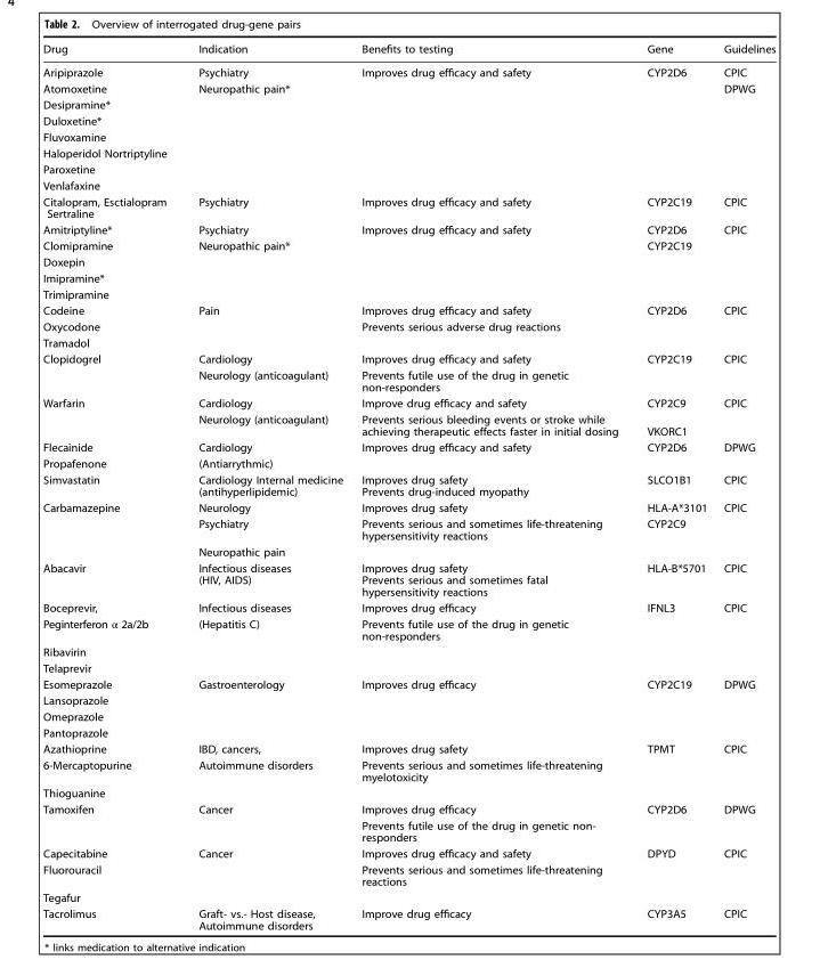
<table><thead><tr><td>Drug</td><td>Indication</td><td>Benefits to testing</td><td>Gene</td><td>Guidelines</td></tr></thead><tbody><tr><td>Aripiprazole</td><td>Psychiatry</td><td>Improves drug efficacy and safety</td><td>CYP2D6</td><td>CPIC</td></tr><tr><td>Atomoxetine</td><td>Neuropathic pain*</td><td></td><td></td><td>DPWG</td></tr><tr><td colspan="5">Desipramine*</td></tr><tr><td colspan="5">Duloxetine*</td></tr><tr><td colspan="5">Fluvoxamine</td></tr><tr><td colspan="5">Haloperidol Nortriptyline</td></tr><tr><td colspan="5">Paroxetine</td></tr><tr><td colspan="5">Venlafaxine</td></tr><tr><td>Citalopram, Esctialopram Sertraline</td><td>Psychiatry</td><td>Improves drug efficacy and safety</td><td>CYP2C19</td><td>CPIC</td></tr><tr><td>Amitriptyline*</td><td>Psychiatry</td><td>Improves drug efficacy and safety</td><td>CYP2D6</td><td>CPIC</td></tr><tr><td>Clomipramine</td><td>Neuropathic pain*</td><td></td><td>CYP2C19</td><td></td></tr><tr><td colspan="5">Doxepin</td></tr><tr><td colspan="5">Imipramine*</td></tr><tr><td colspan="5">Trimipramine</td></tr><tr><td>Codeine</td><td>Pain</td><td>Improves drug efficacy and safety</td><td>CYP2D6</td><td>CPIC</td></tr><tr><td>Oxycodone</td><td></td><td>Prevents serious adverse drug reactions</td><td></td><td></td></tr><tr><td colspan="5">Tramadol</td></tr><tr><td rowspan="2">Clopidogrel</td><td>Cardiology</td><td>Improves drug efficacy and safety</td><td>CYP2C19</td><td>CPIC</td></tr><tr><td>Neurology (anticoagulant)</td><td>Prevents futile use of the drug in genetic non-responders</td><td></td><td></td></tr><tr><td rowspan="2">Warfarin</td><td>Cardiology</td><td>Improve drug efficacy and safety</td><td>CYP2C9</td><td>CPIC</td></tr><tr><td>Neurology (anticoagulant)</td><td>Prevents serious bleeding events or stroke while achieving therapeutic effects faster in initial dosing</td><td>VKORC1</td><td></td></tr><tr><td>Flecainide</td><td>Cardiology</td><td>Improves drug efficacy and safety</td><td>CYP2D6</td><td>DPWG</td></tr><tr><td>Propafenone</td><td>(Antiarrythmic)</td><td></td><td></td><td></td></tr><tr><td>Simvastatin</td><td>Cardiology Internal medicine (antihyperlipidemic)</td><td>Improves drug safety Prevents drug-induced myopathy</td><td>SLCO1B1</td><td>CPIC</td></tr><tr><td rowspan="3">Carbamazepine</td><td>Neurology</td><td>Improves drug safety</td><td>HLA-A*3101</td><td>CPIC</td></tr><tr><td>Psychiatry</td><td>Prevents serious and sometimes life-threatening hypersensitivity reactions</td><td>CYP2C9</td><td></td></tr><tr><td>Neuropathic pain</td><td></td><td></td><td></td></tr><tr><td>Abacavir</td><td>Infectious diseases (HIV, AIDS)</td><td>Improves drug safety Prevents serious and sometimes fatal hypersensitivity reactions</td><td>HLA-B*5701</td><td>CPIC</td></tr><tr><td>Boceprevir,</td><td>Infectious diseases</td><td>Improves drug efficacy</td><td>IFNL3</td><td>CPIC</td></tr><tr><td>Peginterferon α 2a/2b</td><td>(Hepatitis C)</td><td>Prevents futile use of the drug in genetic non-responders</td><td></td><td></td></tr><tr><td colspan="5">Ribavirin</td></tr><tr><td colspan="5">Telaprevir</td></tr><tr><td>Esomeprazole</td><td>Gastroenterology</td><td>Improves drug efficacy</td><td>CYP2C19</td><td>DPWG</td></tr><tr><td colspan="5">Lansoprazole</td></tr><tr><td colspan="5">Omeprazole</td></tr><tr><td colspan="5">Pantoprazole</td></tr><tr><td>Azathioprine</td><td>IBD, cancers,</td><td>Improves drug safety</td><td>TPMT</td><td>CPIC</td></tr><tr><td>6-Mercaptopurine</td><td>Autoimmune disorders</td><td>Prevents serious and sometimes life-threatening myelotoxicity</td><td></td><td></td></tr><tr><td colspan="5">Thioguanine</td></tr><tr><td rowspan="2">Tamoxifen</td><td>Cancer</td><td>Improves drug efficacy</td><td>CYP2D6</td><td>DPWG</td></tr><tr><td></td><td>Prevents futile use of the drug in genetic non- responders</td><td></td><td></td></tr><tr><td>Capecitabine</td><td>Cancer</td><td>Improves drug efficacy and safety</td><td>DPYD</td><td>CPIC</td></tr><tr><td>Fluorouracil</td><td></td><td>Prevents serious and sometimes life-threatening reactions</td><td></td><td></td></tr><tr><td colspan="5">Tegafur</td></tr><tr><td>Tacrolimus</td><td>Graft- vs.- Host disease, Autoimmune disorders</td><td>Improve drug efficacy</td><td>CYP3A5</td><td>CPIC</td></tr></tbody></table>